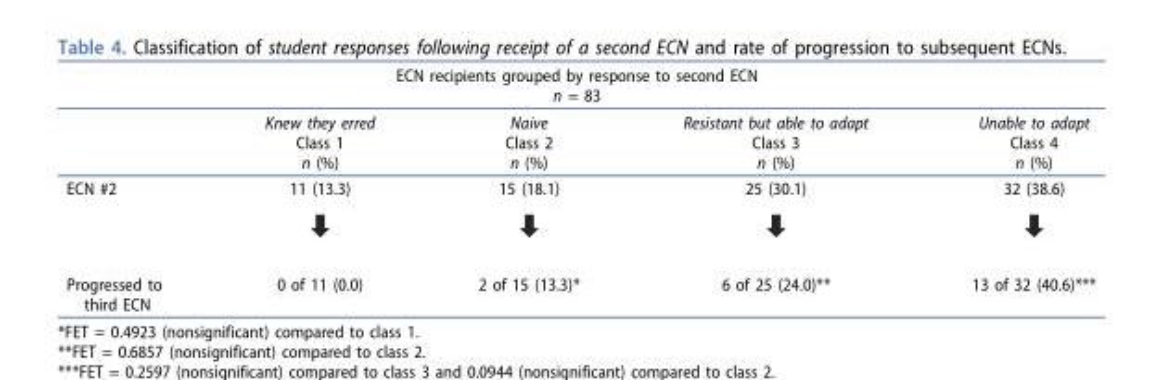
<table><thead><tr><td colspan="5">ECN recipients grouped by response to second ECN n = 83</td></tr><tr><td></td><td>Knew they erred Class 1 n (%)</td><td>Naive Class 2 n (%)</td><td>Resistant but able to adapt Class 3 n (%)</td><td>Unable to adapt Class 4 n (%)</td></tr></thead><tbody><tr><td>ECN #2</td><td>11 (13.3)</td><td>15 (18.1)</td><td>25 (30.1)</td><td>32 (38.6)</td></tr><tr><td>Progressed to third ECN</td><td>0 of 11 (0.0)</td><td>2 of 15 (13.3)*</td><td>6 of 25 (24.0)**</td><td>13 of 32 (40.6)***</td></tr></tbody></table>